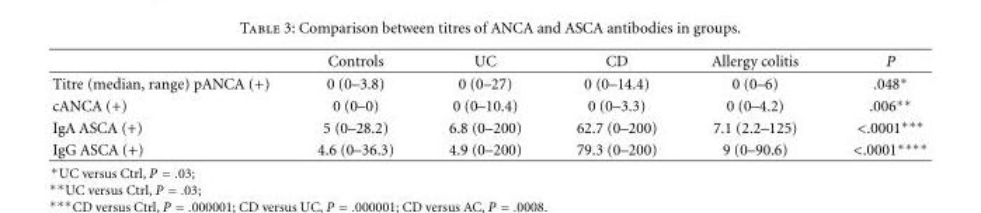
<table><thead><tr><td></td><td>Controls</td><td>UC</td><td>CD</td><td>Allergy colitis</td><td>P</td></tr></thead><tbody><tr><td>Titre (median, range) pANCA (+)</td><td>0 (0–3.8)</td><td>0 (0–27)</td><td>0 (0–14.4)</td><td>0 (0–6)</td><td>.048∗</td></tr><tr><td>cANCA (+)</td><td>0 (0–0)</td><td>0 (0–10.4)</td><td>0 (0–3.3)</td><td>0 (0–4.2)</td><td>.006∗∗</td></tr><tr><td>IgA ASCA (+)</td><td>5 (0–28.2)</td><td>6.8 (0–200)</td><td>62.7 (0–200)</td><td>7.1 (2.2–125)</td><td>&lt;.0001∗∗∗</td></tr><tr><td>IgG ASCA (+)</td><td>4.6 (0–36.3)</td><td>4.9 (0–200)</td><td>79.3 (0–200)</td><td>9 (0–90.6)</td><td>&lt;.0001∗∗∗∗</td></tr></tbody></table>